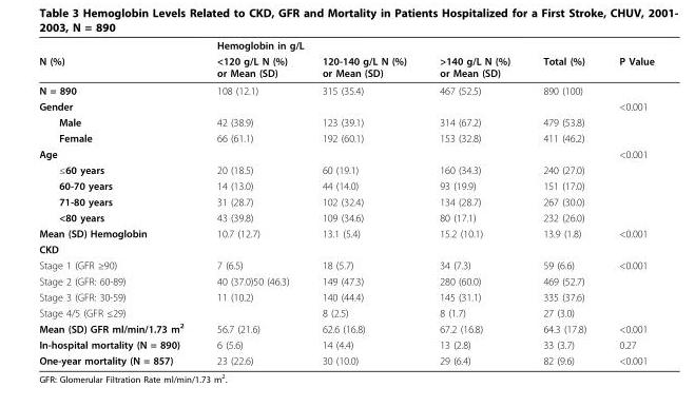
<table><thead><tr><td rowspan="2">N (%)</td><td colspan="3">Hemoglobin in g/L</td><td rowspan="2">Total (%)</td><td rowspan="2">P Value</td></tr><tr><td>&lt;120 g/L N (%) or Mean (SD)</td><td>120-140 g/L N (%) or Mean (SD)</td><td>&gt;140 g/L N (%) or Mean (SD)</td></tr></thead><tbody><tr><td>N = 890</td><td>108 (12.1)</td><td>315 (35.4)</td><td>467 (52.5)</td><td>890 (100)</td><td></td></tr><tr><td>Gender</td><td></td><td></td><td></td><td></td><td>&lt;0.001</td></tr><tr><td>Male</td><td>42 (38.9)</td><td>123 (39.1)</td><td>314 (67.2)</td><td>479 (53.8)</td><td></td></tr><tr><td>Female</td><td>66 (61.1)</td><td>192 (60.1)</td><td>153 (32.8)</td><td>411 (46.2)</td><td></td></tr><tr><td>Age</td><td></td><td></td><td></td><td></td><td>&lt;0.001</td></tr><tr><td>≤60 years</td><td>20 (18.5)</td><td>60 (19.1)</td><td>160 (34.3)</td><td>240 (27.0)</td><td></td></tr><tr><td>60-70 years</td><td>14 (13.0)</td><td>44 (14.0)</td><td>93 (19.9)</td><td>151 (17.0)</td><td></td></tr><tr><td>71-80 years</td><td>31 (28.7)</td><td>102 (32.4)</td><td>134 (28.7)</td><td>267 (30.0)</td><td></td></tr><tr><td>&lt;80 years</td><td>43 (39.8)</td><td>109 (34.6)</td><td>80 (17.1)</td><td>232 (26.0)</td><td></td></tr><tr><td>Mean (SD) Hemoglobin</td><td>10.7 (12.7)</td><td>13.1 (5.4)</td><td>15.2 (10.1)</td><td>13.9 (1.8)</td><td>&lt;0.001</td></tr><tr><td colspan="6">CKD</td></tr><tr><td>Stage 1 (GFR ≥90)</td><td>7 (6.5)</td><td>18 (5.7)</td><td>34 (7.3)</td><td>59 (6.6)</td><td>&lt;0.001</td></tr><tr><td>Stage 2 (GFR: 60-89)</td><td>40 (37.0)50 (46.3)</td><td>149 (47.3)</td><td>280 (60.0)</td><td>469 (52.7)</td><td></td></tr><tr><td>Stage 3 (GFR: 30-59)</td><td>11 (10.2)</td><td>140 (44.4)</td><td>145 (31.1)</td><td>335 (37.6)</td><td></td></tr><tr><td>Stage 4/5 (GFR ≤29)</td><td></td><td>8 (2.5)</td><td>8 (1.7)</td><td>27 (3.0)</td><td></td></tr><tr><td>Mean (SD) GFR ml/min/1.73 m<sup>2</sup></td><td>56.7 (21.6)</td><td>62.6 (16.8)</td><td>67.2 (16.8)</td><td>64.3 (17.8)</td><td>&lt;0.001</td></tr><tr><td>In-hospital mortality (N = 890)</td><td>6 (5.6)</td><td>14 (4.4)</td><td>13 (2.8)</td><td>33 (3.7)</td><td>0.27</td></tr><tr><td>One-year mortality (N = 857)</td><td>23 (22.6)</td><td>30 (10.0)</td><td>29 (6.4)</td><td>82 (9.6)</td><td>&lt;0.001</td></tr></tbody></table>